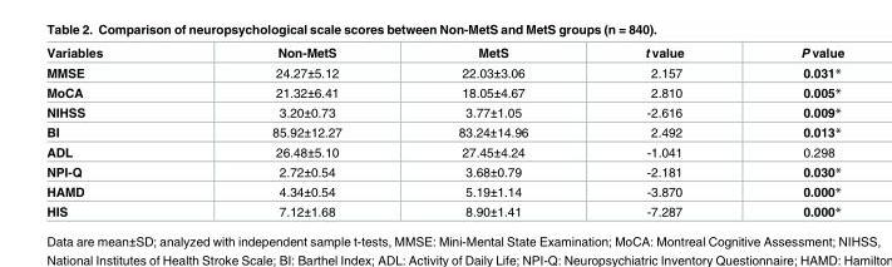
<table><thead><tr><td>Variables</td><td>Non-MetS</td><td>MetS</td><td>t value</td><td>P value</td></tr></thead><tbody><tr><td>MMSE</td><td>24.27±5.12</td><td>22.03±3.06</td><td>2.157</td><td>0.031*</td></tr><tr><td>MoCA</td><td>21.32±6.41</td><td>18.05±4.67</td><td>2.810</td><td>0.005*</td></tr><tr><td>NIHSS</td><td>3.20±0.73</td><td>3.77±1.05</td><td>-2.616</td><td>0.009*</td></tr><tr><td>BI</td><td>85.92±12.27</td><td>83.24±14.96</td><td>2.492</td><td>0.013*</td></tr><tr><td>ADL</td><td>26.48±5.10</td><td>27.45±4.24</td><td>-1.041</td><td>0.298</td></tr><tr><td>NPI-Q</td><td>2.72±0.54</td><td>3.68±0.79</td><td>-2.181</td><td>0.030*</td></tr><tr><td>HAMD</td><td>4.34±0.54</td><td>5.19±1.14</td><td>-3.870</td><td>0.000*</td></tr><tr><td>HIS</td><td>7.12±1.68</td><td>8.90±1.41</td><td>-7.287</td><td>0.000*</td></tr></tbody></table>